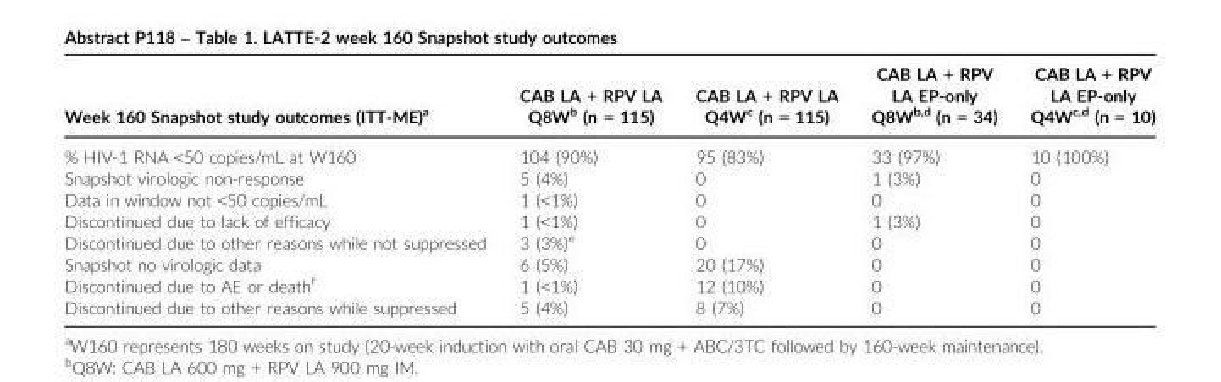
<table><thead><tr><td>Week 160 Snapshot study outcomes (ITT-ME)<sup>a</sup></td><td>CAB LA + RPV LA Q8W<sup>b</sup> (n = 115)</td><td>CAB LA + RPV LA Q4W<sup>c</sup> (n = 115)</td><td>CAB LA + RPV LA EP-only Q8W<sup>b,d</sup> (n = 34)</td><td>CAB LA + RPV LA EP-only Q4W<sup>c,d</sup> (n = 10)</td></tr></thead><tbody><tr><td>% HIV-1 RNA &lt;50 copies/mL at W160</td><td>104 (90%)</td><td>95 (83%)</td><td>33 (97%)</td><td>10 (100%)</td></tr><tr><td>Snapshot virologic non-response</td><td>5 (4%)</td><td>0</td><td>1 (3%)</td><td>0</td></tr><tr><td>Data in window not &lt;50 copies/mL</td><td>1 (&lt;1%)</td><td>0</td><td>0</td><td>0</td></tr><tr><td>Discontinued due to lack of efficacy</td><td>1 (&lt;1%)</td><td>0</td><td>1 (3%)</td><td>0</td></tr><tr><td>Discontinued due to other reasons while not suppressed</td><td>3 (3%)<sup>e</sup></td><td>0</td><td>0</td><td>0</td></tr><tr><td>Snapshot no virologic data</td><td>6 (5%)</td><td>20 (17%)</td><td>0</td><td>0</td></tr><tr><td>Discontinued due to AE or death<sup>f</sup></td><td>1 (&lt;1%)</td><td>12 (10%)</td><td>0</td><td>0</td></tr><tr><td>Discontinued due to other reasons while suppressed</td><td>5 (4%)</td><td>8 (7%)</td><td>0</td><td>0</td></tr></tbody></table>